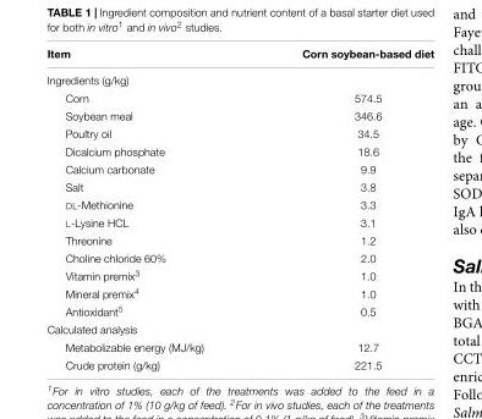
<table><thead><tr><td>Item</td><td>Corn soybean-based diet</td></tr></thead><tbody><tr><td colspan="2">Ingredients (g/kg)</td></tr><tr><td>Corn</td><td>574.5</td></tr><tr><td>Soybean meal</td><td>346.6</td></tr><tr><td>Poultry oil</td><td>34.5</td></tr><tr><td>Dicalcium phosphate</td><td>18.6</td></tr><tr><td>Calcium carbonate</td><td>9.9</td></tr><tr><td>Salt</td><td>3.8</td></tr><tr><td>DL-Methionine</td><td>3.3</td></tr><tr><td>L-Lysine HCL</td><td>3.1</td></tr><tr><td>Threonine</td><td>1.2</td></tr><tr><td>Choline chloride 60%</td><td>2.0</td></tr><tr><td>Vitamin premix<sup>3</sup></td><td>1.0</td></tr><tr><td>Mineral premix<sup>4</sup></td><td>1.0</td></tr><tr><td>Antioxidant<sup>5</sup></td><td>0.5</td></tr><tr><td colspan="2">Calculated analysis</td></tr><tr><td>Metabolizable energy (MJ/kg)</td><td>12.7</td></tr><tr><td>Crude protein (g/kg)</td><td>221.5</td></tr></tbody></table>